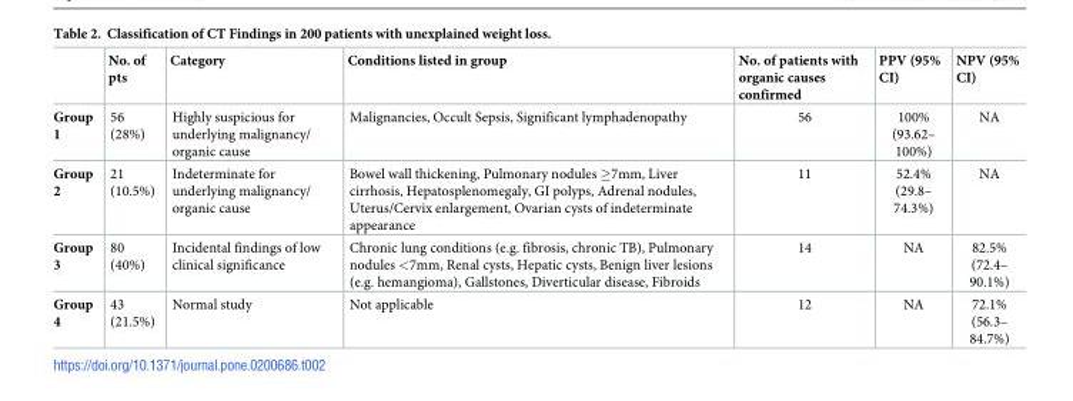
<table><thead><tr><td></td><td>No. of pts</td><td>Category</td><td>Conditions listed in group</td><td>No. of patients with organic causes confirmed</td><td>PPV (95% CI)</td><td>NPV (95% CI)</td></tr></thead><tbody><tr><td>Group 1</td><td>56 (28%)</td><td>Highly suspicious for underlying malignancy/ organic cause</td><td>Malignancies, Occult Sepsis, Significant lymphadenopathy</td><td>56</td><td>100% (93.62– 100%)</td><td>NA</td></tr><tr><td>Group 2</td><td>21 (10.5%)</td><td>Indeterminate for underlying malignancy/ organic cause</td><td>Bowel wall thickening, Pulmonary nodules ≥7mm, Liver cirrhosis, Hepatosplenomegaly, GI polyps, Adrenal nodules, Uterus/Cervix enlargement, Ovarian cysts of indeterminate appearance</td><td>11</td><td>52.4% (29.8– 74.3%)</td><td>NA</td></tr><tr><td>Group 3</td><td>80 (40%)</td><td>Incidental findings of low clinical significance</td><td>Chronic lung conditions (e.g. fibrosis, chronic TB), Pulmonary nodules &lt;7mm, Renal cysts, Hepatic cysts, Benign liver lesions (e.g. hemangioma), Gallstones, Diverticular disease, Fibroids</td><td>14</td><td>NA</td><td>82.5% (72.4– 90.1%)</td></tr><tr><td>Group 4</td><td>43 (21.5%)</td><td>Normal study</td><td>Not applicable</td><td>12</td><td>NA</td><td>72.1% (56.3– 84.7%)</td></tr></tbody></table>